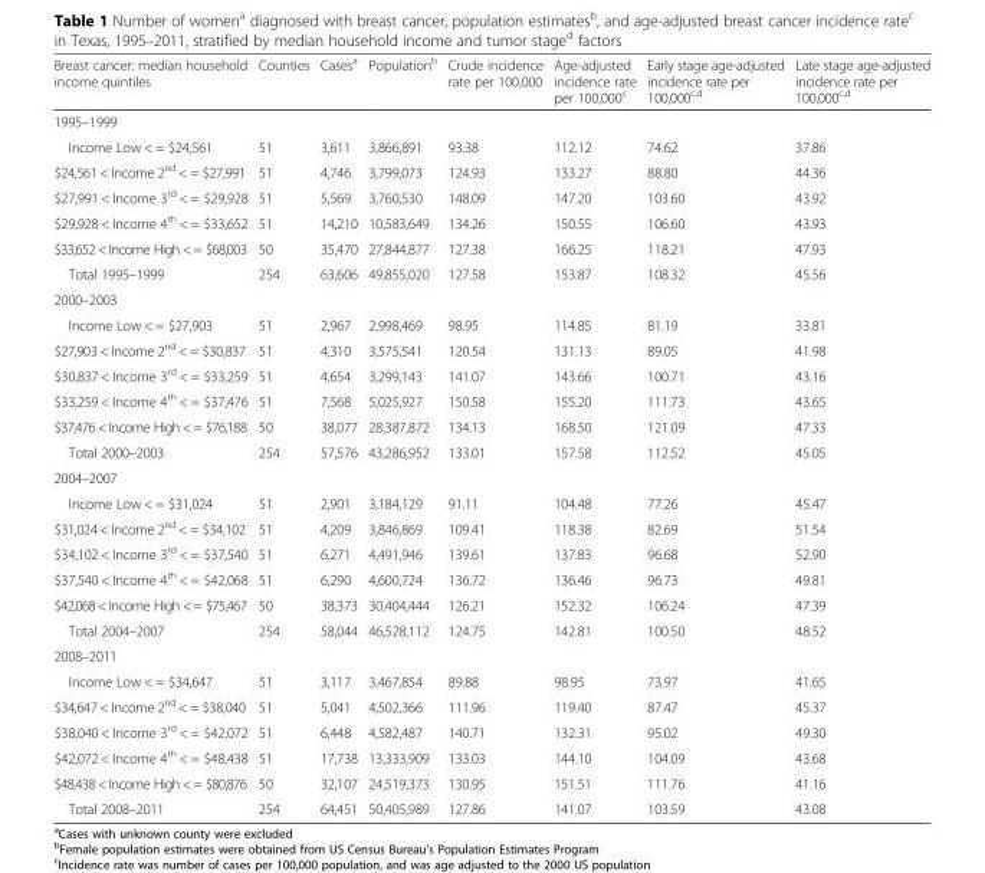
<table><thead><tr><td>Breast cancer: median household income quintiles</td><td>Counties</td><td>Cases<sup>a</sup></td><td>Population<sup>b</sup></td><td>Crude incidence rate per 100,000</td><td>Age-adjusted incidence rate per 100,000<sup>c</sup></td><td>Early stage age-adjusted incidence rate per 100,000<sup>c,d</sup></td><td>Late stage age-adjusted incidence rate per 100,000<sup>c,d</sup></td></tr></thead><tbody><tr><td colspan="8">1995–1999</td></tr><tr><td>Income Low &lt; = $24,561</td><td>51</td><td>3,611</td><td>3,866,891</td><td>93.38</td><td>112.12</td><td>74.62</td><td>37.86</td></tr><tr><td>$24,561 &lt; Income 2<sup>nd</sup> &lt; = $27,991</td><td>51</td><td>4,746</td><td>3,799,073</td><td>124.93</td><td>133.27</td><td>88.80</td><td>44.36</td></tr><tr><td>$27,991 &lt; Income 3<sup>rd</sup> &lt; = $29,928</td><td>51</td><td>5,569</td><td>3,760,530</td><td>148.09</td><td>147.20</td><td>103.60</td><td>43.92</td></tr><tr><td>$29,928 &lt; Income 4<sup>th</sup> &lt; = $33,652</td><td>51</td><td>14,210</td><td>10,583,649</td><td>134.26</td><td>150.55</td><td>106.60</td><td>43.93</td></tr><tr><td>$33,652 &lt; Income High &lt; = $68,003</td><td>50</td><td>35,470</td><td>27,844,877</td><td>127.38</td><td>166.25</td><td>118.21</td><td>47.93</td></tr><tr><td>Total 1995–1999</td><td>254</td><td>63,606</td><td>49,855,020</td><td>127.58</td><td>153.87</td><td>108.32</td><td>45.56</td></tr><tr><td colspan="8">2000–2003</td></tr><tr><td>Income Low &lt; = $27,903</td><td>51</td><td>2,967</td><td>2,998,469</td><td>98.95</td><td>114.85</td><td>81.19</td><td>33.81</td></tr><tr><td>$27,903 &lt; Income 2<sup>nd</sup> &lt; = $30,837</td><td>51</td><td>4,310</td><td>3,575,541</td><td>120.54</td><td>131.13</td><td>89.05</td><td>41.98</td></tr><tr><td>$30,837 &lt; Income 3<sup>rd</sup> &lt; = $33,259</td><td>51</td><td>4,654</td><td>3,299,143</td><td>141.07</td><td>143.66</td><td>100.71</td><td>43.16</td></tr><tr><td>$33,259 &lt; Income 4<sup>th</sup> &lt; = $37,476</td><td>51</td><td>7,568</td><td>5,025,927</td><td>150.58</td><td>155.20</td><td>111.73</td><td>43.65</td></tr><tr><td>$37,476 &lt; Income High &lt; = $76,188</td><td>50</td><td>38,077</td><td>28,387,872</td><td>134.13</td><td>168.50</td><td>121.09</td><td>47.33</td></tr><tr><td>Total 2000–2003</td><td>254</td><td>57,576</td><td>43,286,952</td><td>133.01</td><td>157.58</td><td>112.52</td><td>45.05</td></tr><tr><td colspan="8">2004–2007</td></tr><tr><td>Income Low &lt; = $31,024</td><td>51</td><td>2,901</td><td>3,184,129</td><td>91.11</td><td>104.48</td><td>77.26</td><td>45.47</td></tr><tr><td>$31,024 &lt; Income 2<sup>nd</sup> &lt; = $34,102</td><td>51</td><td>4,209</td><td>3,846,869</td><td>109.41</td><td>118.38</td><td>82.69</td><td>51.54</td></tr><tr><td>$34,102 &lt; Income 3<sup>rd</sup> &lt; = $37,540</td><td>51</td><td>6,271</td><td>4,491,946</td><td>139.61</td><td>137.83</td><td>96.68</td><td>52.90</td></tr><tr><td>$37,540 &lt; Income 4<sup>th</sup> &lt; = $42,068</td><td>51</td><td>6,290</td><td>4,600,724</td><td>136.72</td><td>136.46</td><td>96.73</td><td>49.81</td></tr><tr><td>$42,068 &lt; Income High &lt; = $75,467</td><td>50</td><td>38,373</td><td>30,404,444</td><td>126.21</td><td>152.32</td><td>106.24</td><td>47.39</td></tr><tr><td>Total 2004–2007</td><td>254</td><td>58,044</td><td>46,528,112</td><td>124.75</td><td>142.81</td><td>100.50</td><td>48.52</td></tr><tr><td colspan="8">2008–2011</td></tr><tr><td>Income Low &lt; = $34,647</td><td>51</td><td>3,117</td><td>3,467,854</td><td>89.88</td><td>98.95</td><td>73.97</td><td>41.65</td></tr><tr><td>$34,647 &lt; Income 2<sup>nd</sup> &lt; = $38,040</td><td>51</td><td>5,041</td><td>4,502,366</td><td>111.96</td><td>119.40</td><td>87.47</td><td>45.37</td></tr><tr><td>$38,040 &lt; Income 3<sup>rd</sup> &lt; = $42,072</td><td>51</td><td>6,448</td><td>4,582,487</td><td>140.71</td><td>132.31</td><td>95.02</td><td>49.30</td></tr><tr><td>$42,072 &lt; Income 4<sup>th</sup> &lt; = $48,438</td><td>51</td><td>17,738</td><td>13,333,909</td><td>133.03</td><td>144.10</td><td>104.09</td><td>43.68</td></tr><tr><td>$48,438 &lt; Income High &lt; = $80,876</td><td>50</td><td>32,107</td><td>24,519,373</td><td>130.95</td><td>151.51</td><td>111.76</td><td>41.16</td></tr><tr><td>Total 2008–2011</td><td>254</td><td>64,451</td><td>50,405,989</td><td>127.86</td><td>141.07</td><td>103.59</td><td>43.08</td></tr></tbody></table>